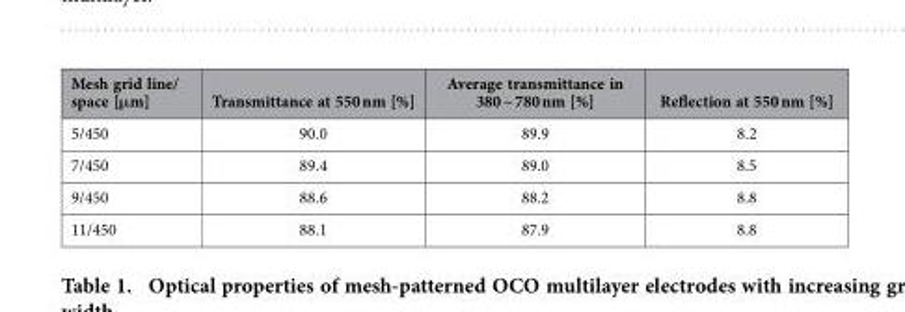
<table><thead><tr><td>Mesh grid line/ space [μm]</td><td>Transmittance at 550 nm [%]</td><td>Average transmittance in 380 ~ 780 nm [%]</td><td>Reflection at 550 nm [%]</td></tr></thead><tbody><tr><td>5/450</td><td>90.0</td><td>89.9</td><td>8.2</td></tr><tr><td>7/450</td><td>89.4</td><td>89.0</td><td>8.5</td></tr><tr><td>9/450</td><td>88.6</td><td>88.2</td><td>8.8</td></tr><tr><td>11/450</td><td>88.1</td><td>87.9</td><td>8.8</td></tr></tbody></table>